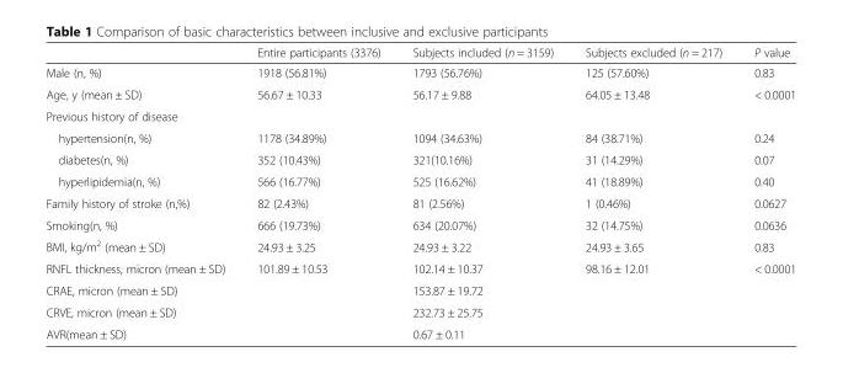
<table><thead><tr><td></td><td>Entire participants (3376)</td><td>Subjects included (n = 3159)</td><td>Subjects excluded (n = 217)</td><td>P value</td></tr></thead><tbody><tr><td>Male (n, %)</td><td>1918 (56.81%)</td><td>1793 (56.76%)</td><td>125 (57.60%)</td><td>0.83</td></tr><tr><td>Age, y (mean ± SD)</td><td>56.67 ± 10.33</td><td>56.17 ± 9.88</td><td>64.05 ± 13.48</td><td>&lt; 0.0001</td></tr><tr><td colspan="5">Previous history of disease</td></tr><tr><td>hypertension(n, %)</td><td>1178 (34.89%)</td><td>1094 (34.63%)</td><td>84 (38.71%)</td><td>0.24</td></tr><tr><td>diabetes(n, %)</td><td>352 (10.43%)</td><td>321(10.16%)</td><td>31 (14.29%)</td><td>0.07</td></tr><tr><td>hyperlipidemia(n, %)</td><td>566 (16.77%)</td><td>525 (16.62%)</td><td>41 (18.89%)</td><td>0.40</td></tr><tr><td>Family history of stroke (n,%)</td><td>82 (2.43%)</td><td>81 (2.56%)</td><td>1 (0.46%)</td><td>0.0627</td></tr><tr><td>Smoking(n, %)</td><td>666 (19.73%)</td><td>634 (20.07%)</td><td>32 (14.75%)</td><td>0.0636</td></tr><tr><td>BMI, kg/m<sup>2</sup> (mean ± SD)</td><td>24.93 ± 3.25</td><td>24.93 ± 3.22</td><td>24.93 ± 3.65</td><td>0.83</td></tr><tr><td>RNFL thickness, micron (mean ± SD)</td><td>101.89 ± 10.53</td><td>102.14 ± 10.37</td><td>98.16 ± 12.01</td><td>&lt; 0.0001</td></tr><tr><td>CRAE, micron (mean ± SD)</td><td></td><td>153.87 ± 19.72</td><td></td><td></td></tr><tr><td>CRVE, micron (mean ± SD)</td><td></td><td>232.73 ± 25.75</td><td></td><td></td></tr><tr><td>AVR(mean ± SD)</td><td></td><td>0.67 ± 0.11</td><td></td><td></td></tr></tbody></table>